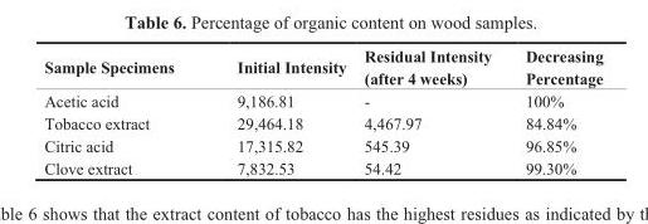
<table><thead><tr><td>Sample Specimens</td><td>Initial Intensity</td><td>Residual Intensity (after 4 weeks)</td><td>Decreasing Percentage</td></tr></thead><tbody><tr><td>Acetic acid</td><td>9,186.81</td><td>-</td><td>100%</td></tr><tr><td>Tobacco extract</td><td>29,464.18</td><td>4,467.97</td><td>84.84%</td></tr><tr><td>Citric acid</td><td>17,315.82</td><td>545.39</td><td>96.85%</td></tr><tr><td>Clove extract</td><td>7,832.53</td><td>54.42</td><td>99.30%</td></tr></tbody></table>